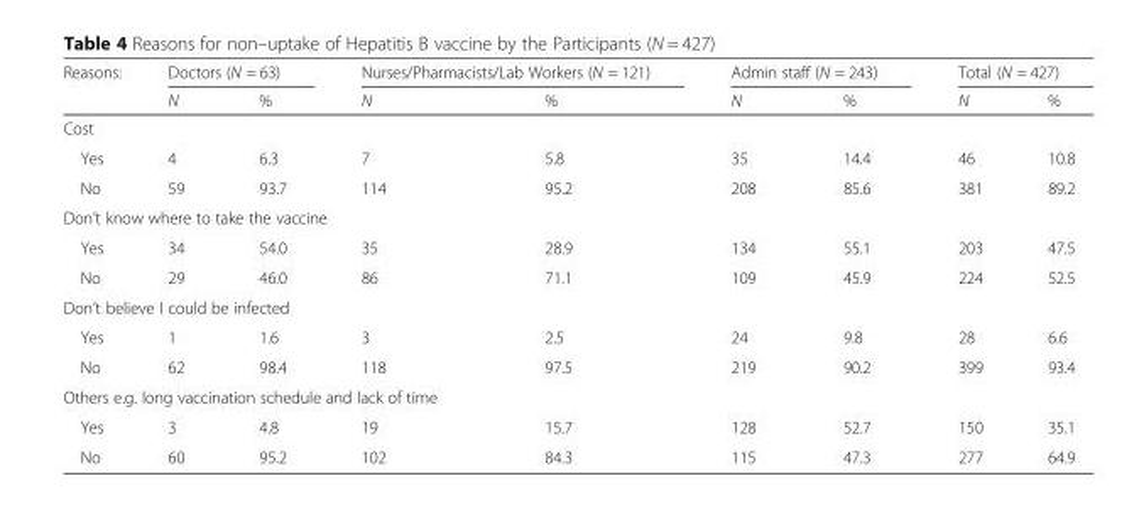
<table><thead><tr><td rowspan="2">Reasons:</td><td colspan="2">Doctors (N = 63)</td><td colspan="2">Nurses/Pharmacists/Lab Workers (N = 121)</td><td colspan="2">Admin staff (N = 243)</td><td colspan="2">Total (N = 427)</td></tr><tr><td>N</td><td>%</td><td>N</td><td>%</td><td>N</td><td>%</td><td>N</td><td>%</td></tr></thead><tbody><tr><td colspan="9">Cost</td></tr><tr><td>Yes</td><td>4</td><td>6.3</td><td>7</td><td>5.8</td><td>35</td><td>14.4</td><td>46</td><td>10.8</td></tr><tr><td>No</td><td>59</td><td>93.7</td><td>114</td><td>95.2</td><td>208</td><td>85.6</td><td>381</td><td>89.2</td></tr><tr><td colspan="9">Don’t know where to take the vaccine</td></tr><tr><td>Yes</td><td>34</td><td>54.0</td><td>35</td><td>28.9</td><td>134</td><td>55.1</td><td>203</td><td>47.5</td></tr><tr><td>No</td><td>29</td><td>46.0</td><td>86</td><td>71.1</td><td>109</td><td>45.9</td><td>224</td><td>52.5</td></tr><tr><td colspan="9">Don’t believe I could be infected</td></tr><tr><td>Yes</td><td>1</td><td>1.6</td><td>3</td><td>2.5</td><td>24</td><td>9.8</td><td>28</td><td>6.6</td></tr><tr><td>No</td><td>62</td><td>98.4</td><td>118</td><td>97.5</td><td>219</td><td>90.2</td><td>399</td><td>93.4</td></tr><tr><td colspan="9">Others e.g. long vaccination schedule and lack of time</td></tr><tr><td>Yes</td><td>3</td><td>4.8</td><td>19</td><td>15.7</td><td>128</td><td>52.7</td><td>150</td><td>35.1</td></tr><tr><td>No</td><td>60</td><td>95.2</td><td>102</td><td>84.3</td><td>115</td><td>47.3</td><td>277</td><td>64.9</td></tr></tbody></table>